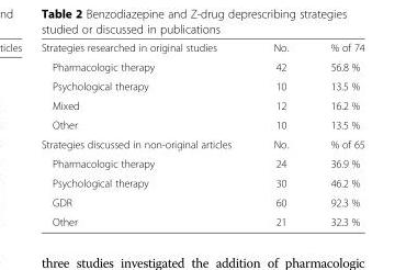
<table><tbody><tr><td>Strategies researched in original studies</td><td>No.</td><td>% of 74</td></tr><tr><td>Pharmacologic therapy</td><td>42</td><td>56.8 %</td></tr><tr><td>Psychological therapy</td><td>10</td><td>13.5 %</td></tr><tr><td>Mixed</td><td>12</td><td>16.2 %</td></tr><tr><td>Other</td><td>10</td><td>13.5 %</td></tr><tr><td>Strategies discussed in non-original articles</td><td>No.</td><td>% of 65</td></tr><tr><td>Pharmacologic therapy</td><td>24</td><td>36.9 %</td></tr><tr><td>Psychological therapy</td><td>30</td><td>46.2 %</td></tr><tr><td>GDR</td><td>60</td><td>92.3 %</td></tr><tr><td>Other</td><td>21</td><td>32.3 %</td></tr></tbody></table>